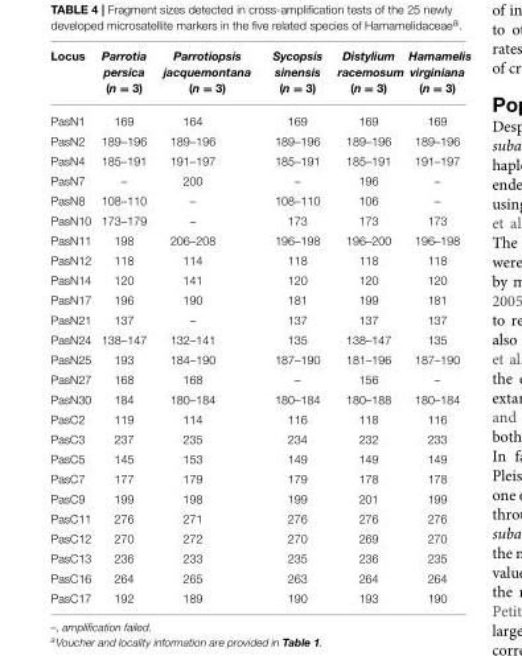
<table><thead><tr><td>Locus</td><td>Parrotia persica (n = 3)</td><td>Parrotiopsis jacquemontana (n = 3)</td><td>Sycopsis sinensis (n = 3)</td><td>Distylium racemosum (n = 3)</td><td>Hamamelis virginiana (n = 3)</td></tr></thead><tbody><tr><td>PasN1</td><td>169</td><td>164</td><td>169</td><td>169</td><td>169</td></tr><tr><td>PasN2</td><td>189–196</td><td>189–196</td><td>189–196</td><td>189–196</td><td>189–196</td></tr><tr><td>PasN4</td><td>185–191</td><td>191–197</td><td>185–191</td><td>185–191</td><td>191–197</td></tr><tr><td>PasN7</td><td>–</td><td>200</td><td>–</td><td>196</td><td>–</td></tr><tr><td>PasN8</td><td>108–110</td><td>–</td><td>108–110</td><td>106</td><td>–</td></tr><tr><td>PasN10</td><td>173–179</td><td>–</td><td>173</td><td>173</td><td>173</td></tr><tr><td>PasN11</td><td>198</td><td>206–208</td><td>196–198</td><td>196–200</td><td>196–198</td></tr><tr><td>PasN12</td><td>118</td><td>114</td><td>118</td><td>118</td><td>118</td></tr><tr><td>PasN14</td><td>120</td><td>141</td><td>120</td><td>120</td><td>120</td></tr><tr><td>PasN17</td><td>196</td><td>190</td><td>181</td><td>199</td><td>181</td></tr><tr><td>PasN21</td><td>137</td><td>–</td><td>137</td><td>137</td><td>137</td></tr><tr><td>PasN24</td><td>138–147</td><td>132–141</td><td>135</td><td>138–147</td><td>135</td></tr><tr><td>PasN25</td><td>193</td><td>184–190</td><td>187–190</td><td>181–196</td><td>187–190</td></tr><tr><td>PasN27</td><td>168</td><td>168</td><td>–</td><td>156</td><td>–</td></tr><tr><td>PasN30</td><td>184</td><td>180–184</td><td>180–184</td><td>180–188</td><td>180–184</td></tr><tr><td>PasC2</td><td>119</td><td>114</td><td>116</td><td>118</td><td>116</td></tr><tr><td>PasC3</td><td>237</td><td>235</td><td>234</td><td>232</td><td>233</td></tr><tr><td>PasC5</td><td>145</td><td>153</td><td>149</td><td>149</td><td>149</td></tr><tr><td>PasC7</td><td>177</td><td>179</td><td>179</td><td>178</td><td>178</td></tr><tr><td>PasC9</td><td>199</td><td>198</td><td>199</td><td>201</td><td>199</td></tr><tr><td>PasC11</td><td>276</td><td>271</td><td>276</td><td>276</td><td>276</td></tr><tr><td>PasC12</td><td>270</td><td>272</td><td>270</td><td>269</td><td>270</td></tr><tr><td>PasC13</td><td>236</td><td>233</td><td>235</td><td>236</td><td>235</td></tr><tr><td>PasC16</td><td>264</td><td>265</td><td>263</td><td>264</td><td>264</td></tr><tr><td>PasC17</td><td>192</td><td>189</td><td>190</td><td>193</td><td>190</td></tr></tbody></table>